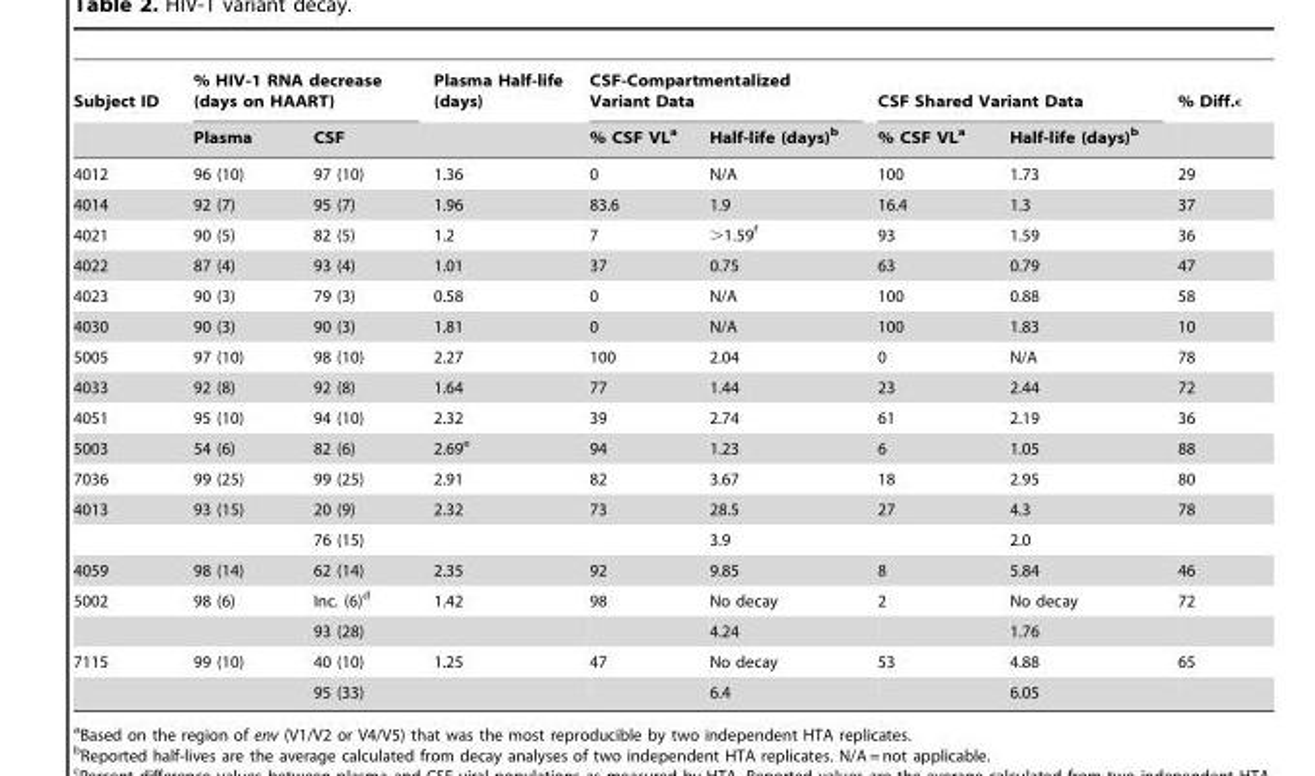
<table><thead><tr><td rowspan="2">Subject ID</td><td colspan="2">% HIV-1 RNA decrease (days on HAART)</td><td rowspan="2">Plasma Half-life (days)</td><td colspan="2">CSF-Compartmentalized Variant Data</td><td colspan="2">CSF Shared Variant Data</td><td rowspan="2">% Diff.<sup>c</sup></td></tr><tr><td>Plasma</td><td>CSF</td><td>% CSF VL<sup>a</sup></td><td>Half-life (days)<sup>b</sup></td><td>% CSF VL<sup>a</sup></td><td>Half-life (days)<sup>b</sup></td></tr></thead><tbody><tr><td>4012</td><td>96 (10)</td><td>97 (10)</td><td>1.36</td><td>0</td><td>N/A</td><td>100</td><td>1.73</td><td>29</td></tr><tr><td>4014</td><td>92 (7)</td><td>95 (7)</td><td>1.96</td><td>83.6</td><td>1.9</td><td>16.4</td><td>1.3</td><td>37</td></tr><tr><td>4021</td><td>90 (5)</td><td>82 (5)</td><td>1.2</td><td>7</td><td>&gt;1.59<sup>f</sup></td><td>93</td><td>1.59</td><td>36</td></tr><tr><td>4022</td><td>87 (4)</td><td>93 (4)</td><td>1.01</td><td>37</td><td>0.75</td><td>63</td><td>0.79</td><td>47</td></tr><tr><td>4023</td><td>90 (3)</td><td>79 (3)</td><td>0.58</td><td>0</td><td>N/A</td><td>100</td><td>0.88</td><td>58</td></tr><tr><td>4030</td><td>90 (3)</td><td>90 (3)</td><td>1.81</td><td>0</td><td>N/A</td><td>100</td><td>1.83</td><td>10</td></tr><tr><td>5005</td><td>97 (10)</td><td>98 (10)</td><td>2.27</td><td>100</td><td>2.04</td><td>0</td><td>N/A</td><td>78</td></tr><tr><td>4033</td><td>92 (8)</td><td>92 (8)</td><td>1.64</td><td>77</td><td>1.44</td><td>23</td><td>2.44</td><td>72</td></tr><tr><td>4051</td><td>95 (10)</td><td>94 (10)</td><td>2.32</td><td>39</td><td>2.74</td><td>61</td><td>2.19</td><td>36</td></tr><tr><td>5003</td><td>54 (6)</td><td>82 (6)</td><td>2.69<sup>e</sup></td><td>94</td><td>1.23</td><td>6</td><td>1.05</td><td>88</td></tr><tr><td>7036</td><td>99 (25)</td><td>99 (25)</td><td>2.91</td><td>82</td><td>3.67</td><td>18</td><td>2.95</td><td>80</td></tr><tr><td rowspan="2">4013</td><td>93 (15)</td><td>20 (9)</td><td>2.32</td><td>73</td><td>28.5</td><td>27</td><td>4.3</td><td>78</td></tr><tr><td></td><td>76 (15)</td><td></td><td></td><td>3.9</td><td></td><td>2.0</td><td></td></tr><tr><td>4059</td><td>98 (14)</td><td>62 (14)</td><td>2.35</td><td>92</td><td>9.85</td><td>8</td><td>5.84</td><td>46</td></tr><tr><td rowspan="2">5002</td><td>98 (6)</td><td>Inc. (6)<sup>d</sup></td><td>1.42</td><td>98</td><td>No decay</td><td>2</td><td>No decay</td><td>72</td></tr><tr><td></td><td>93 (28)</td><td></td><td></td><td>4.24</td><td></td><td>1.76</td><td></td></tr><tr><td rowspan="2">7115</td><td>99 (10)</td><td>40 (10)</td><td>1.25</td><td>47</td><td>No decay</td><td>53</td><td>4.88</td><td>65</td></tr><tr><td></td><td>95 (33)</td><td></td><td></td><td>6.4</td><td></td><td>6.05</td><td></td></tr></tbody></table>